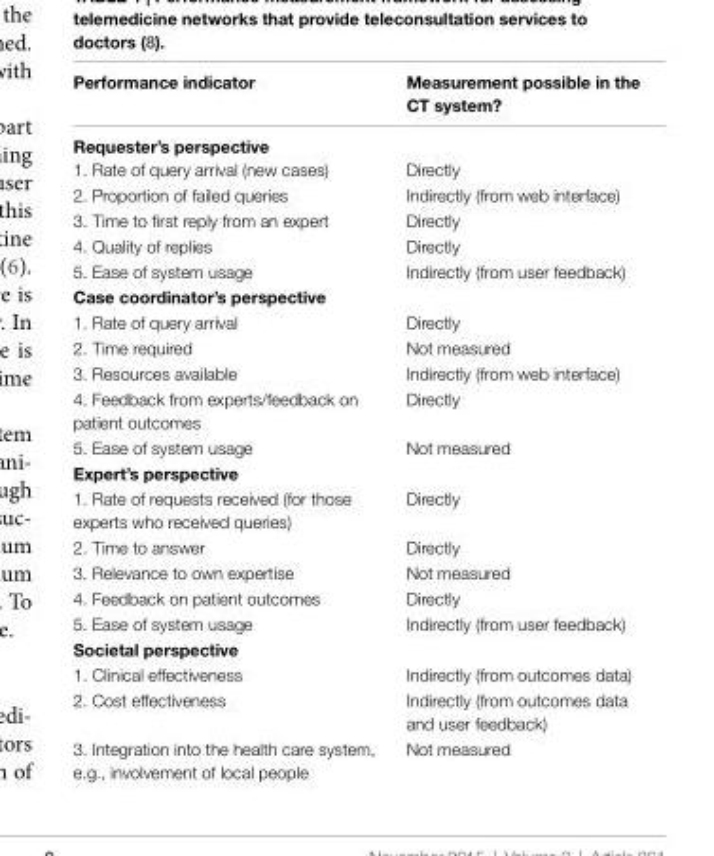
<table><thead><tr><td>Performance indicator</td><td>Measurement possible in the cT system?</td></tr></thead><tbody><tr><td colspan="2">requester’s perspective</td></tr><tr><td>1. Rate of query arrival (new cases)</td><td>Directly</td></tr><tr><td>2. Proportion of failed queries</td><td>Indirectly (from web interface)</td></tr><tr><td>3. Time to first reply from an expert</td><td>Directly</td></tr><tr><td>4. Quality of replies</td><td>Directly</td></tr><tr><td>5. Ease of system usage</td><td>Indirectly (from user feedback)</td></tr><tr><td colspan="2">case coordinator’s perspective</td></tr><tr><td>1. Rate of query arrival</td><td>Directly</td></tr><tr><td>2. Time required</td><td>Not measured</td></tr><tr><td>3. Resources available</td><td>Indirectly (from web interface)</td></tr><tr><td>4. Feedback from experts/feedback on patient outcomes</td><td>Directly</td></tr><tr><td>5. Ease of system usage</td><td>Not measured</td></tr><tr><td colspan="2">expert’s perspective</td></tr><tr><td>1. Rate of requests received (for those experts who received queries)</td><td>Directly</td></tr><tr><td>2. Time to answer</td><td>Directly</td></tr><tr><td>3. Relevance to own expertise</td><td>Not measured</td></tr><tr><td>4. Feedback on patient outcomes</td><td>Directly</td></tr><tr><td>5. Ease of system usage</td><td>Indirectly (from user feedback)</td></tr><tr><td colspan="2">societal perspective</td></tr><tr><td>1. Clinical effectiveness</td><td>Indirectly (from outcomes data)</td></tr><tr><td>2. Cost effectiveness</td><td>Indirectly (from outcomes data and user feedback)</td></tr><tr><td>3. Integration into the health care system, e.g., involvement of local people</td><td>Not measured</td></tr></tbody></table>